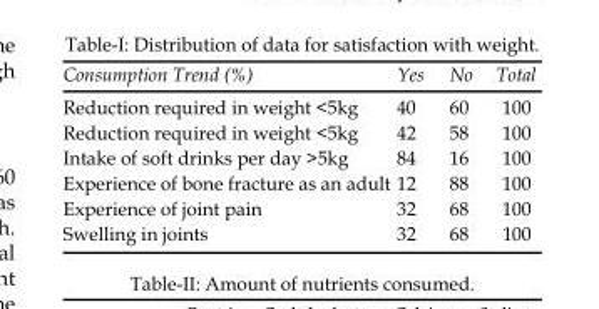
<table><thead><tr><td>Consumption Trend (%)</td><td>Yes</td><td>No</td><td>Total</td></tr></thead><tbody><tr><td>Reduction required in weight &lt;5kg</td><td>40</td><td>60</td><td>100</td></tr><tr><td>Reduction required in weight &lt;5kg</td><td>42</td><td>58</td><td>100</td></tr><tr><td>Intake of soft drinks per day &gt;5kg</td><td>84</td><td>16</td><td>100</td></tr><tr><td>Experience of bone fracture as an adult</td><td>12</td><td>88</td><td>100</td></tr><tr><td>Experience of joint pain</td><td>32</td><td>68</td><td>100</td></tr><tr><td>Swelling in joints</td><td>32</td><td>68</td><td>100</td></tr></tbody></table>